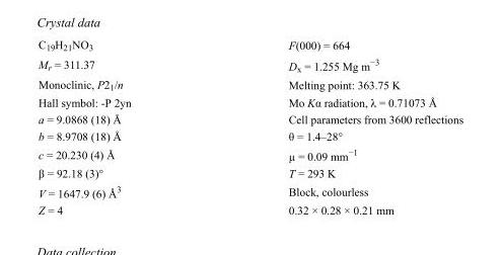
<table><tbody><tr><td>C<sub>19</sub>H<sub>21</sub>NO<sub>3</sub></td><td>F(000) = 664</td></tr><tr><td>M<sub>r</sub> = 311.37</td><td>D<sub>x</sub> = 1.255 Mg m<sup>−3</sup></td></tr><tr><td>Monoclinic, P2<sub>1</sub>/n</td><td>Melting point: 363.75 K</td></tr><tr><td>Hall symbol: -P 2yn</td><td>Mo Kα radiation, λ = 0.71073 Å</td></tr><tr><td>a = 9.0868 (18) Å</td><td>Cell parameters from 3600 reflections</td></tr><tr><td>b = 8.9708 (18) Å</td><td>θ = 1.4–28°</td></tr><tr><td>c = 20.230 (4) Å</td><td>µ = 0.09 mm<sup>−1</sup></td></tr><tr><td>β = 92.18 (3)°</td><td>T = 293 K</td></tr><tr><td>V = 1647.9 (6) Å<sup>3</sup></td><td>Block, colourless</td></tr><tr><td>Z = 4</td><td>0.32 × 0.28 × 0.21 mm</td></tr></tbody></table>